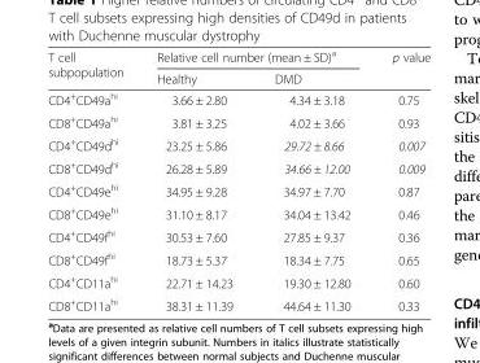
<table><thead><tr><td rowspan="2">T cell subpopulation</td><td colspan="2">Relative cell number (mean ± SD)<sup>a</sup></td><td rowspan="2">p value</td></tr><tr><td>Healthy</td><td>DMD</td></tr></thead><tbody><tr><td>CD4<sup>+</sup>CD49a<sup>hi</sup></td><td>3.66 ± 2.80</td><td>4.34 ± 3.18</td><td>0.75</td></tr><tr><td>CD8<sup>+</sup>CD49a<sup>hi</sup></td><td>3.81 ± 3.25</td><td>4.02 ± 3.66</td><td>0.93</td></tr><tr><td>CD4<sup>+</sup>CD49d<sup>hi</sup></td><td>23.25 ± 5.86</td><td>29.72 ± 8.66</td><td>0.007</td></tr><tr><td>CD8<sup>+</sup>CD49d<sup>hi</sup></td><td>26.28 ± 5.89</td><td>34.66 ± 12.00</td><td>0.009</td></tr><tr><td>CD4<sup>+</sup>CD49e<sup>hi</sup></td><td>34.95 ± 9.28</td><td>34.97 ± 7.70</td><td>0.87</td></tr><tr><td>CD8<sup>+</sup>CD49e<sup>hi</sup></td><td>31.10 ± 8.17</td><td>34.04 ± 13.42</td><td>0.46</td></tr><tr><td>CD4<sup>+</sup>CD49f<sup>hi</sup></td><td>30.53 ± 7.60</td><td>27.85 ± 9.37</td><td>0.36</td></tr><tr><td>CD8<sup>+</sup>CD49f<sup>hi</sup></td><td>18.73 ± 5.37</td><td>18.34 ± 7.75</td><td>0.65</td></tr><tr><td>CD4<sup>+</sup>CD11a<sup>hi</sup></td><td>22.71 ± 14.23</td><td>19.30 ± 12.80</td><td>0.60</td></tr><tr><td>CD8<sup>+</sup>CD11a<sup>hi</sup></td><td>38.31 ± 11.39</td><td>44.64 ± 11.30</td><td>0.33</td></tr></tbody></table>